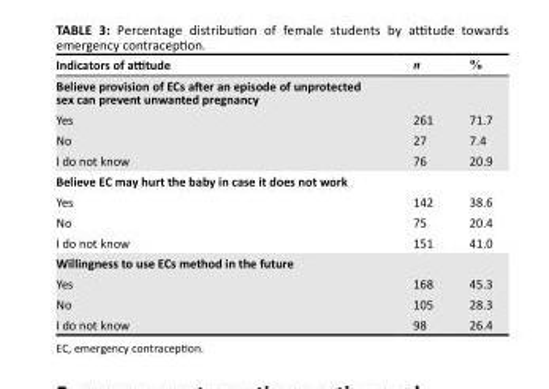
<table><thead><tr><td>Indicators of attitude</td><td>n</td><td>%</td></tr></thead><tbody><tr><td colspan="3">Believe provision of ECs after an episode of unprotected sex can prevent unwanted pregnancy</td></tr><tr><td>Yes</td><td>261</td><td>71.7</td></tr><tr><td>No</td><td>27</td><td>7.4</td></tr><tr><td>I do not know</td><td>76</td><td>20.9</td></tr><tr><td colspan="3">Believe EC may hurt the baby in case it does not work</td></tr><tr><td>Yes</td><td>142</td><td>38.6</td></tr><tr><td>No</td><td>75</td><td>20.4</td></tr><tr><td>I do not know</td><td>151</td><td>41.0</td></tr><tr><td colspan="3">Willingness to use ECs method in the future</td></tr><tr><td>Yes</td><td>168</td><td>45.3</td></tr><tr><td>No</td><td>105</td><td>28.3</td></tr><tr><td>I do not know</td><td>98</td><td>26.4</td></tr></tbody></table>